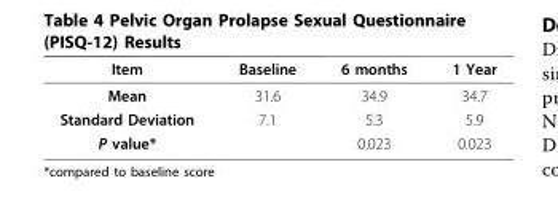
<table><thead><tr><td>Item</td><td>Baseline</td><td>6 months</td><td>1 Year</td></tr></thead><tbody><tr><td>Mean</td><td>31.6</td><td>34.9</td><td>34.7</td></tr><tr><td>Standard Deviation</td><td>7.1</td><td>5.3</td><td>5.9</td></tr><tr><td>P value*</td><td></td><td>0.023</td><td>0.023</td></tr></tbody></table>